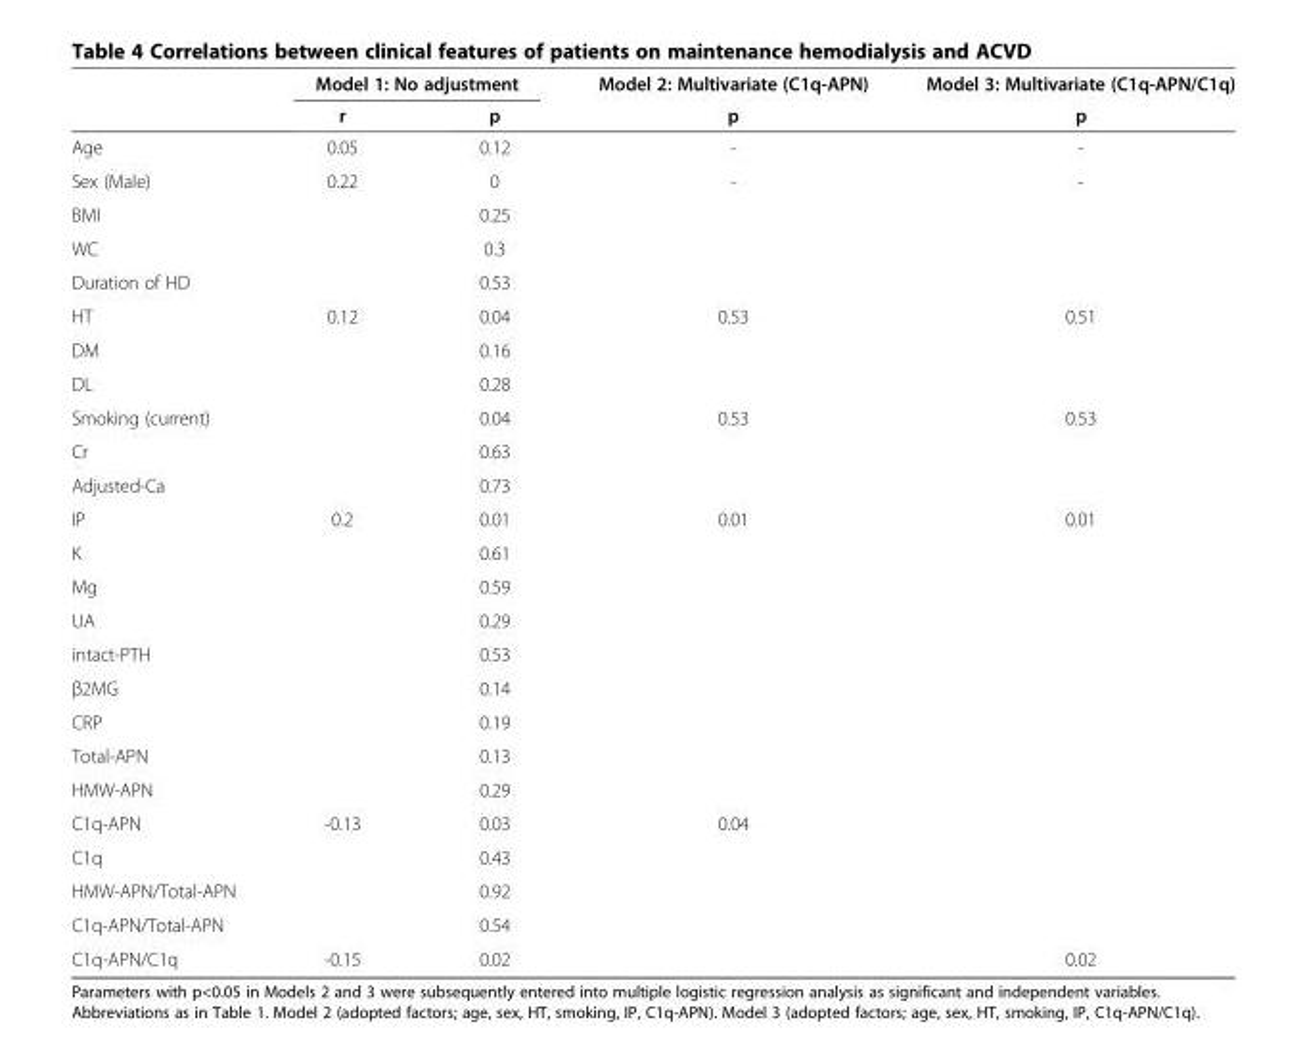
<table><thead><tr><td rowspan="2"></td><td colspan="2">Model 1: No adjustment</td><td rowspan="2">Model 2: Multivariate (C1q-APN) p</td><td rowspan="2">Model 3: Multivariate (C1q-APN/C1q) p</td></tr><tr><td>r</td><td>p</td></tr></thead><tbody><tr><td>Age</td><td>0.05</td><td>0.12</td><td>-</td><td>-</td></tr><tr><td>Sex (Male)</td><td>0.22</td><td>0</td><td>-</td><td>-</td></tr><tr><td>BMI</td><td></td><td>0.25</td><td></td><td></td></tr><tr><td>WC</td><td></td><td>0.3</td><td></td><td></td></tr><tr><td>Duration of HD</td><td></td><td>0.53</td><td></td><td></td></tr><tr><td>HT</td><td>0.12</td><td>0.04</td><td>0.53</td><td>0.51</td></tr><tr><td>DM</td><td></td><td>0.16</td><td></td><td></td></tr><tr><td>DL</td><td></td><td>0.28</td><td></td><td></td></tr><tr><td>Smoking (current)</td><td></td><td>0.04</td><td>0.53</td><td>0.53</td></tr><tr><td>Cr</td><td></td><td>0.63</td><td></td><td></td></tr><tr><td>Adjusted-Ca</td><td></td><td>0.73</td><td></td><td></td></tr><tr><td>IP</td><td>0.2</td><td>0.01</td><td>0.01</td><td>0.01</td></tr><tr><td>K</td><td></td><td>0.61</td><td></td><td></td></tr><tr><td>Mg</td><td></td><td>0.59</td><td></td><td></td></tr><tr><td>UA</td><td></td><td>0.29</td><td></td><td></td></tr><tr><td>intact-PTH</td><td></td><td>0.53</td><td></td><td></td></tr><tr><td>β2MG</td><td></td><td>0.14</td><td></td><td></td></tr><tr><td>CRP</td><td></td><td>0.19</td><td></td><td></td></tr><tr><td>Total-APN</td><td></td><td>0.13</td><td></td><td></td></tr><tr><td>HMW-APN</td><td></td><td>0.29</td><td></td><td></td></tr><tr><td>C1q-APN</td><td>-0.13</td><td>0.03</td><td>0.04</td><td></td></tr><tr><td>C1q</td><td></td><td>0.43</td><td></td><td></td></tr><tr><td>HMW-APN/Total-APN</td><td></td><td>0.92</td><td></td><td></td></tr><tr><td>C1q-APN/Total-APN</td><td></td><td>0.54</td><td></td><td></td></tr><tr><td>C1q-APN/C1q</td><td>-0.15</td><td>0.02</td><td></td><td>0.02</td></tr></tbody></table>